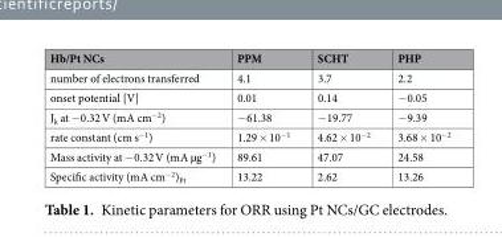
<table><thead><tr><td>Hb/Pt NCs</td><td>PPM</td><td>SCHT</td><td>PHP</td></tr></thead><tbody><tr><td>number of electrons transferred</td><td>4.1</td><td>3.7</td><td>2.2</td></tr><tr><td>onset potential [V]</td><td>0.01</td><td>0.14</td><td>−0.05</td></tr><tr><td>J<sub>k</sub> at −0.32 V (mA cm<sup>−2</sup>)</td><td>−61.38</td><td>−19.77</td><td>−9.39</td></tr><tr><td>rate constant (cm s<sup>−1</sup>)</td><td>1.29 × 10<sup>−1</sup></td><td>4.62 × 10<sup>−2</sup></td><td>3.68 × 10<sup>−2</sup></td></tr><tr><td>Mass activity at −0.32 V (mA µg<sup>−1</sup>)</td><td>89.61</td><td>47.07</td><td>24.58</td></tr><tr><td>Specific activity (mA cm<sup>−2</sup>)<sub>Pt</sub></td><td>13.22</td><td>2.62</td><td>13.26</td></tr></tbody></table>